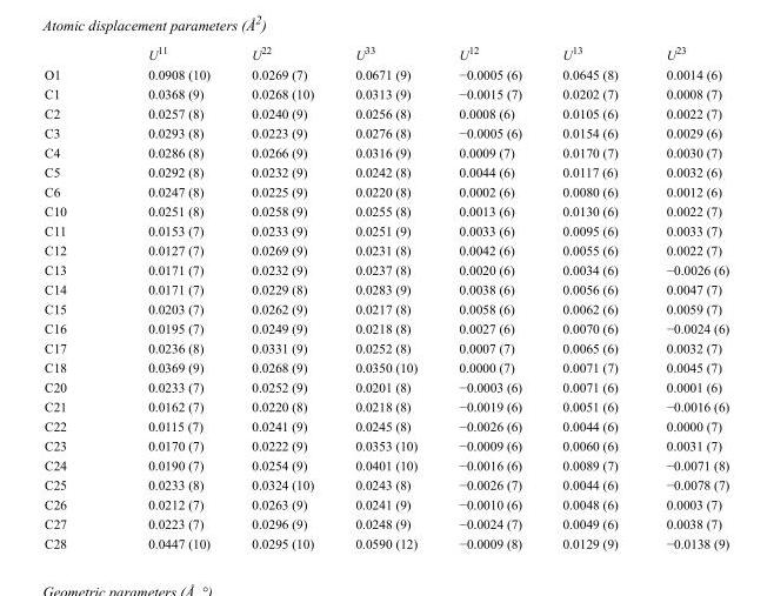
<table><thead><tr><td></td><td>U<sup>11</sup></td><td>U<sup>22</sup></td><td>U<sup>33</sup></td><td>U<sup>12</sup></td><td>U<sup>13</sup></td><td>U<sup>23</sup></td></tr></thead><tbody><tr><td>O1</td><td>0.0908 (10)</td><td>0.0269 (7)</td><td>0.0671 (9)</td><td>−0.0005 (6)</td><td>0.0645 (8)</td><td>0.0014 (6)</td></tr><tr><td>C1</td><td>0.0368 (9)</td><td>0.0268 (10)</td><td>0.0313 (9)</td><td>−0.0015 (7)</td><td>0.0202 (7)</td><td>0.0008 (7)</td></tr><tr><td>C2</td><td>0.0257 (8)</td><td>0.0240 (9)</td><td>0.0256 (8)</td><td>0.0008 (6)</td><td>0.0105 (6)</td><td>0.0022 (7)</td></tr><tr><td>C3</td><td>0.0293 (8)</td><td>0.0223 (9)</td><td>0.0276 (8)</td><td>−0.0005 (6)</td><td>0.0154 (6)</td><td>0.0029 (6)</td></tr><tr><td>C4</td><td>0.0286 (8)</td><td>0.0266 (9)</td><td>0.0316 (9)</td><td>0.0009 (7)</td><td>0.0170 (7)</td><td>0.0030 (7)</td></tr><tr><td>C5</td><td>0.0292 (8)</td><td>0.0232 (9)</td><td>0.0242 (8)</td><td>0.0044 (6)</td><td>0.0117 (6)</td><td>0.0032 (6)</td></tr><tr><td>C6</td><td>0.0247 (8)</td><td>0.0225 (9)</td><td>0.0220 (8)</td><td>0.0002 (6)</td><td>0.0080 (6)</td><td>0.0012 (6)</td></tr><tr><td>C10</td><td>0.0251 (8)</td><td>0.0258 (9)</td><td>0.0255 (8)</td><td>0.0013 (6)</td><td>0.0130 (6)</td><td>0.0022 (7)</td></tr><tr><td>C11</td><td>0.0153 (7)</td><td>0.0233 (9)</td><td>0.0251 (9)</td><td>0.0033 (6)</td><td>0.0095 (6)</td><td>0.0033 (7)</td></tr><tr><td>C12</td><td>0.0127 (7)</td><td>0.0269 (9)</td><td>0.0231 (8)</td><td>0.0042 (6)</td><td>0.0055 (6)</td><td>0.0022 (7)</td></tr><tr><td>C13</td><td>0.0171 (7)</td><td>0.0232 (9)</td><td>0.0237 (8)</td><td>0.0020 (6)</td><td>0.0034 (6)</td><td>−0.0026 (6)</td></tr><tr><td>C14</td><td>0.0171 (7)</td><td>0.0229 (8)</td><td>0.0283 (9)</td><td>0.0038 (6)</td><td>0.0056 (6)</td><td>0.0047 (7)</td></tr><tr><td>C15</td><td>0.0203 (7)</td><td>0.0262 (9)</td><td>0.0217 (8)</td><td>0.0058 (6)</td><td>0.0062 (6)</td><td>0.0059 (7)</td></tr><tr><td>C16</td><td>0.0195 (7)</td><td>0.0249 (9)</td><td>0.0218 (8)</td><td>0.0027 (6)</td><td>0.0070 (6)</td><td>−0.0024 (6)</td></tr><tr><td>C17</td><td>0.0236 (8)</td><td>0.0331 (9)</td><td>0.0252 (8)</td><td>0.0007 (7)</td><td>0.0065 (6)</td><td>0.0032 (7)</td></tr><tr><td>C18</td><td>0.0369 (9)</td><td>0.0268 (9)</td><td>0.0350 (10)</td><td>0.0000 (7)</td><td>0.0071 (7)</td><td>0.0045 (7)</td></tr><tr><td>C20</td><td>0.0233 (7)</td><td>0.0252 (9)</td><td>0.0201 (8)</td><td>−0.0003 (6)</td><td>0.0071 (6)</td><td>0.0001 (6)</td></tr><tr><td>C21</td><td>0.0162 (7)</td><td>0.0220 (8)</td><td>0.0218 (8)</td><td>−0.0019 (6)</td><td>0.0051 (6)</td><td>−0.0016 (6)</td></tr><tr><td>C22</td><td>0.0115 (7)</td><td>0.0241 (9)</td><td>0.0245 (8)</td><td>−0.0026 (6)</td><td>0.0044 (6)</td><td>0.0000 (7)</td></tr><tr><td>C23</td><td>0.0170 (7)</td><td>0.0222 (9)</td><td>0.0353 (10)</td><td>−0.0009 (6)</td><td>0.0060 (6)</td><td>0.0031 (7)</td></tr><tr><td>C24</td><td>0.0190 (7)</td><td>0.0254 (9)</td><td>0.0401 (10)</td><td>−0.0016 (6)</td><td>0.0089 (7)</td><td>−0.0071 (8)</td></tr><tr><td>C25</td><td>0.0233 (8)</td><td>0.0324 (10)</td><td>0.0243 (8)</td><td>−0.0026 (7)</td><td>0.0044 (6)</td><td>−0.0078 (7)</td></tr><tr><td>C26</td><td>0.0212 (7)</td><td>0.0263 (9)</td><td>0.0241 (9)</td><td>−0.0010 (6)</td><td>0.0048 (6)</td><td>0.0003 (7)</td></tr><tr><td>C27</td><td>0.0223 (7)</td><td>0.0296 (9)</td><td>0.0248 (9)</td><td>−0.0024 (7)</td><td>0.0049 (6)</td><td>0.0038 (7)</td></tr><tr><td>C28</td><td>0.0447 (10)</td><td>0.0295 (10)</td><td>0.0590 (12)</td><td>−0.0009 (8)</td><td>0.0129 (9)</td><td>−0.0138 (9)</td></tr></tbody></table>